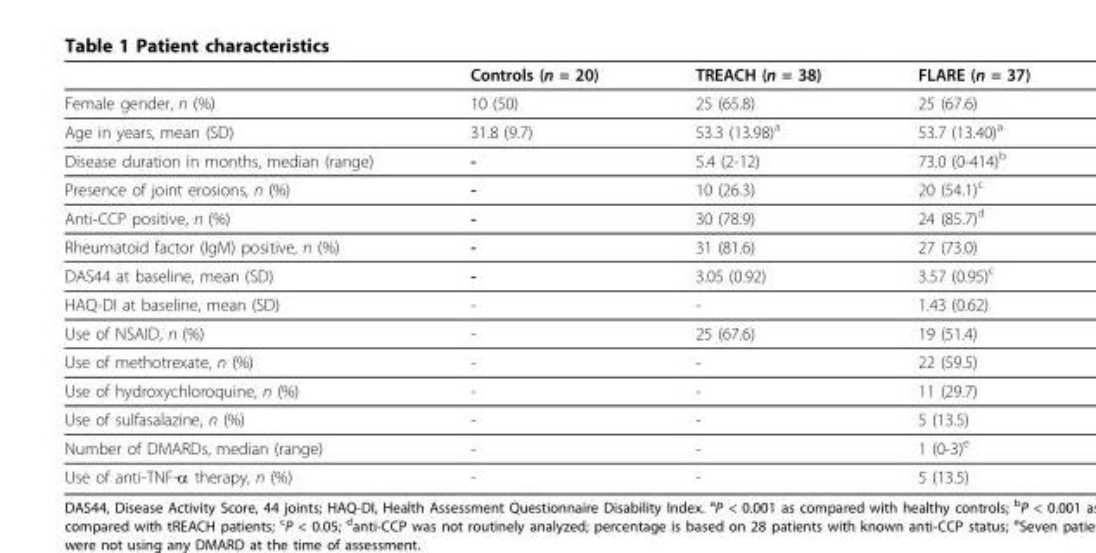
<table><thead><tr><td></td><td>Controls (n = 20)</td><td>TREACH (n = 38)</td><td>FLARE (n = 37)</td></tr></thead><tbody><tr><td>Female gender, n (%)</td><td>10 (50)</td><td>25 (65.8)</td><td>25 (67.6)</td></tr><tr><td>Age in years, mean (SD)</td><td>31.8 (9.7)</td><td>53.3 (13.98)<sup>a</sup></td><td>53.7 (13.40)<sup>a</sup></td></tr><tr><td>Disease duration in months, median (range)</td><td>-</td><td>5.4 (2-12)</td><td>73.0 (0-414)<sup>b</sup></td></tr><tr><td>Presence of joint erosions, n (%)</td><td>-</td><td>10 (26.3)</td><td>20 (54.1)<sup>c</sup></td></tr><tr><td>Anti-CCP positive, n (%)</td><td>-</td><td>30 (78.9)</td><td>24 (85.7)<sup>d</sup></td></tr><tr><td>Rheumatoid factor (IgM) positive, n (%)</td><td>-</td><td>31 (81.6)</td><td>27 (73.0)</td></tr><tr><td>DAS44 at baseline, mean (SD)</td><td>-</td><td>3.05 (0.92)</td><td>3.57 (0.95)<sup>c</sup></td></tr><tr><td>HAQ-DI at baseline, mean (SD)</td><td>-</td><td>-</td><td>1.43 (0.62)</td></tr><tr><td>Use of NSAID, n (%)</td><td>-</td><td>25 (67.6)</td><td>19 (51.4)</td></tr><tr><td>Use of methotrexate, n (%)</td><td>-</td><td>-</td><td>22 (59.5)</td></tr><tr><td>Use of hydroxychloroquine, n (%)</td><td>-</td><td>-</td><td>11 (29.7)</td></tr><tr><td>Use of sulfasalazine, n (%)</td><td>-</td><td>-</td><td>5 (13.5)</td></tr><tr><td>Number of DMARDs, median (range)</td><td>-</td><td>-</td><td>1 (0-3)<sup>e</sup></td></tr><tr><td>Use of anti-TNF-α therapy, n (%)</td><td>-</td><td>-</td><td>5 (13.5)</td></tr></tbody></table>